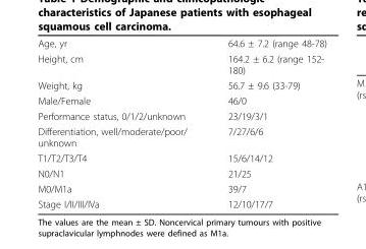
<table><tbody><tr><td>Age, yr</td><td>64.6 ± 7.2 (range 48-78)</td></tr><tr><td>Height, cm</td><td>164.2 ± 6.2 (range 152- 180)</td></tr><tr><td>Weight, kg</td><td>56.7 ± 9.6 (33-79)</td></tr><tr><td>Male/Female</td><td>46/0</td></tr><tr><td>Performance status, 0/1/2/unknown</td><td>23/19/3/1</td></tr><tr><td>Differentiation, well/moderate/poor/ unknown</td><td>7/27/6/6</td></tr><tr><td>T1/T2/T3/T4</td><td>15/6/14/12</td></tr><tr><td>N0/N1</td><td>21/25</td></tr><tr><td>M0/M1a</td><td>39/7</td></tr><tr><td>Stage I/II/III/IVa</td><td>12/10/17/7</td></tr></tbody></table>